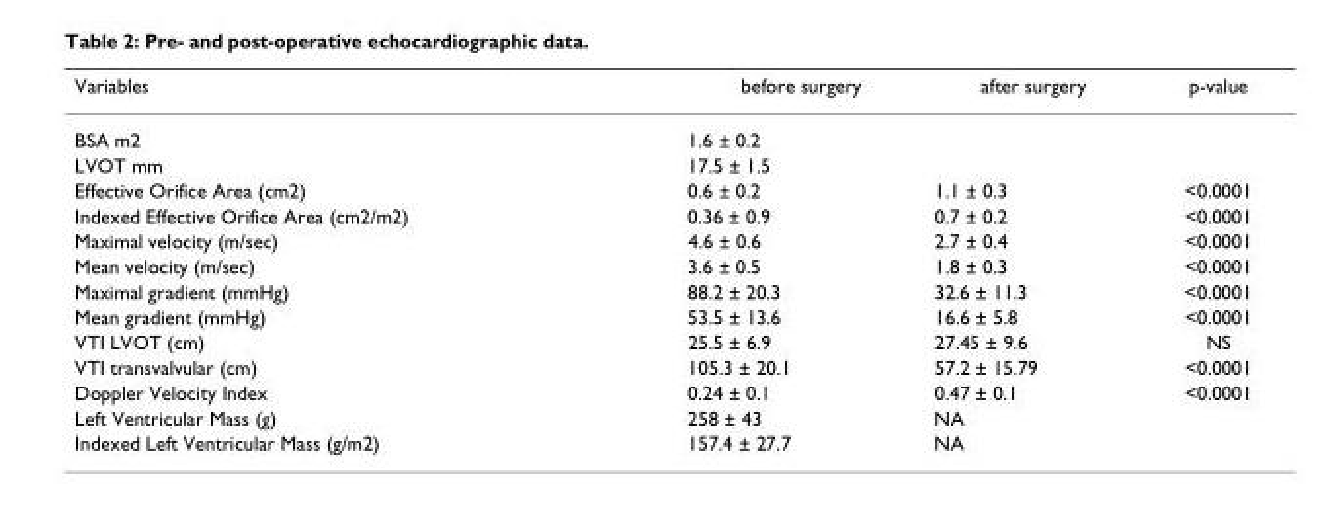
<table><thead><tr><td>Variables</td><td>before surgery</td><td>after surgery</td><td>p-value</td></tr></thead><tbody><tr><td>BSA m2</td><td>1.6 ± 0.2</td><td></td><td></td></tr><tr><td>LVOT mm</td><td>17.5 ± 1.5</td><td></td><td></td></tr><tr><td>Effective Orifice Area (cm2)</td><td>0.6 ± 0.2</td><td>1.1 ± 0.3</td><td>&lt;0.0001</td></tr><tr><td>Indexed Effective Orifice Area (cm2/m2)</td><td>0.36 ± 0.9</td><td>0.7 ± 0.2</td><td>&lt;0.0001</td></tr><tr><td>Maximal velocity (m/sec)</td><td>4.6 ± 0.6</td><td>2.7 ± 0.4</td><td>&lt;0.0001</td></tr><tr><td>Mean velocity (m/sec)</td><td>3.6 ± 0.5</td><td>1.8 ± 0.3</td><td>&lt;0.0001</td></tr><tr><td>Maximal gradient (mmHg)</td><td>88.2 ± 20.3</td><td>32.6 ± 11.3</td><td>&lt;0.0001</td></tr><tr><td>Mean gradient (mmHg)</td><td>53.5 ± 13.6</td><td>16.6 ± 5.8</td><td>&lt;0.0001</td></tr><tr><td>VTI LVOT (cm)</td><td>25.5 ± 6.9</td><td>27.45 ± 9.6</td><td>NS</td></tr><tr><td>VTI transvalvular (cm)</td><td>105.3 ± 20.1</td><td>57.2 ± 15.79</td><td>&lt;0.0001</td></tr><tr><td>Doppler Velocity Index</td><td>0.24 ± 0.1</td><td>0.47 ± 0.1</td><td>&lt;0.0001</td></tr><tr><td>Left Ventricular Mass (g)</td><td>258 ± 43</td><td>NA</td><td></td></tr><tr><td>Indexed Left Ventricular Mass (g/m2)</td><td>157.4 ± 27.7</td><td>NA</td><td></td></tr></tbody></table>